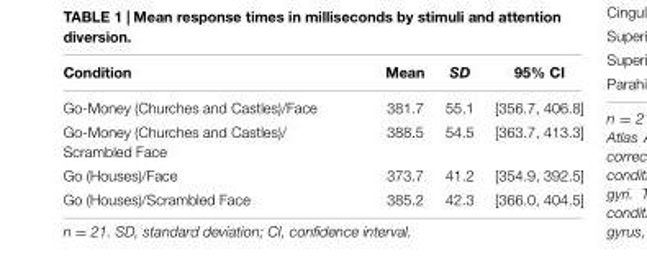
<table><thead><tr><td>Condition</td><td>Mean</td><td>SD</td><td>95% CI</td></tr></thead><tbody><tr><td>Go-Money (Churches and Castles)/Face</td><td>381.7</td><td>55.1</td><td>[356.7, 406.8]</td></tr><tr><td>Go-Money (Churches and Castles)/ Scrambled Face</td><td>388.5</td><td>54.5</td><td>[363.7, 413.3]</td></tr><tr><td>Go (Houses)/Face</td><td>373.7</td><td>41.2</td><td>[354.9, 392.5]</td></tr><tr><td>Go (Houses)/Scrambled Face</td><td>385.2</td><td>42.3</td><td>[366.0, 404.5]</td></tr></tbody></table>